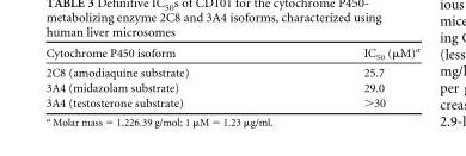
<table><thead><tr><td>Cytochrome P450 isoform</td><td>IC<sub>50</sub> (μM)<sup>a</sup></td></tr></thead><tbody><tr><td>2C8 (amodiaquine substrate)</td><td>25.7</td></tr><tr><td>3A4 (midazolam substrate)</td><td>29.0</td></tr><tr><td>3A4 (testosterone substrate)</td><td>&gt;30</td></tr></tbody></table>